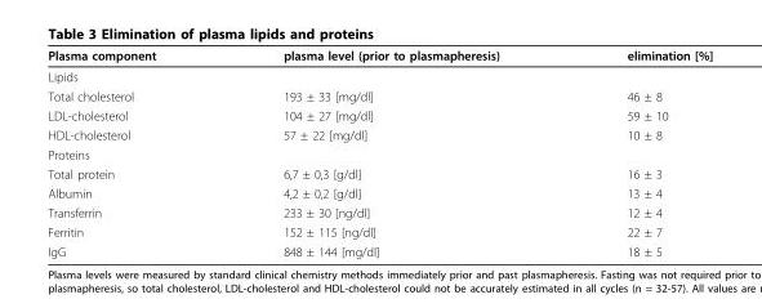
<table><thead><tr><td>Plasma component</td><td>plasma level (prior to plasmapheresis)</td><td>elimination [%]</td></tr></thead><tbody><tr><td colspan="3">Lipids</td></tr><tr><td>Total cholesterol</td><td>193 ± 33 [mg/dl]</td><td>46 ± 8</td></tr><tr><td>LDL-cholesterol</td><td>104 ± 27 [mg/dl]</td><td>59 ± 10</td></tr><tr><td>HDL-cholesterol</td><td>57 ± 22 [mg/dl]</td><td>10 ± 8</td></tr><tr><td colspan="3">Proteins</td></tr><tr><td>Total protein</td><td>6,7 ± 0,3 [g/dl]</td><td>16 ± 3</td></tr><tr><td>Albumin</td><td>4,2 ± 0,2 [g/dl]</td><td>13 ± 4</td></tr><tr><td>Transferrin</td><td>233 ± 30 [ng/dl]</td><td>12 ± 4</td></tr><tr><td>Ferritin</td><td>152 ± 115 [ng/dl]</td><td>22 ± 7</td></tr><tr><td>IgG</td><td>848 ± 144 [mg/dl]</td><td>18 ± 5</td></tr></tbody></table>